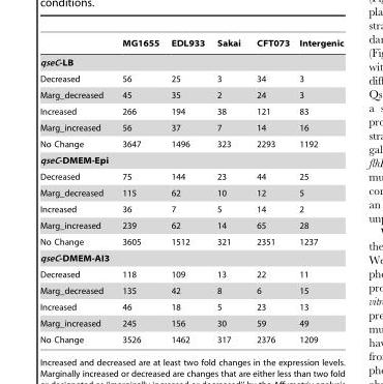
<table><thead><tr><td></td><td>MG1655</td><td>EDL933</td><td>Sakai</td><td>CFT073</td><td>Intergenic</td></tr></thead><tbody><tr><td colspan="6">qseC-LB</td></tr><tr><td>Decreased</td><td>56</td><td>25</td><td>3</td><td>34</td><td>3</td></tr><tr><td>Marg_decreased</td><td>45</td><td>35</td><td>2</td><td>24</td><td>3</td></tr><tr><td>Increased</td><td>266</td><td>194</td><td>38</td><td>121</td><td>83</td></tr><tr><td>Marg_increased</td><td>56</td><td>37</td><td>7</td><td>14</td><td>16</td></tr><tr><td>No Change</td><td>3647</td><td>1496</td><td>323</td><td>2293</td><td>1192</td></tr><tr><td colspan="6">qseC-DMEM-Epi</td></tr><tr><td>Decreased</td><td>75</td><td>144</td><td>23</td><td>44</td><td>25</td></tr><tr><td>Marg_decreased</td><td>115</td><td>62</td><td>10</td><td>12</td><td>5</td></tr><tr><td>Increased</td><td>36</td><td>7</td><td>5</td><td>14</td><td>2</td></tr><tr><td>Marg_increased</td><td>239</td><td>62</td><td>14</td><td>65</td><td>28</td></tr><tr><td>No Change</td><td>3605</td><td>1512</td><td>321</td><td>2351</td><td>1237</td></tr><tr><td colspan="6">qseC-DMEM-AI3</td></tr><tr><td>Decreased</td><td>118</td><td>109</td><td>13</td><td>22</td><td>11</td></tr><tr><td>Marg_decreased</td><td>135</td><td>42</td><td>8</td><td>6</td><td>15</td></tr><tr><td>Increased</td><td>46</td><td>18</td><td>5</td><td>23</td><td>13</td></tr><tr><td>Marg_increased</td><td>245</td><td>156</td><td>30</td><td>59</td><td>49</td></tr><tr><td>No Change</td><td>3526</td><td>1462</td><td>317</td><td>2376</td><td>1209</td></tr></tbody></table>